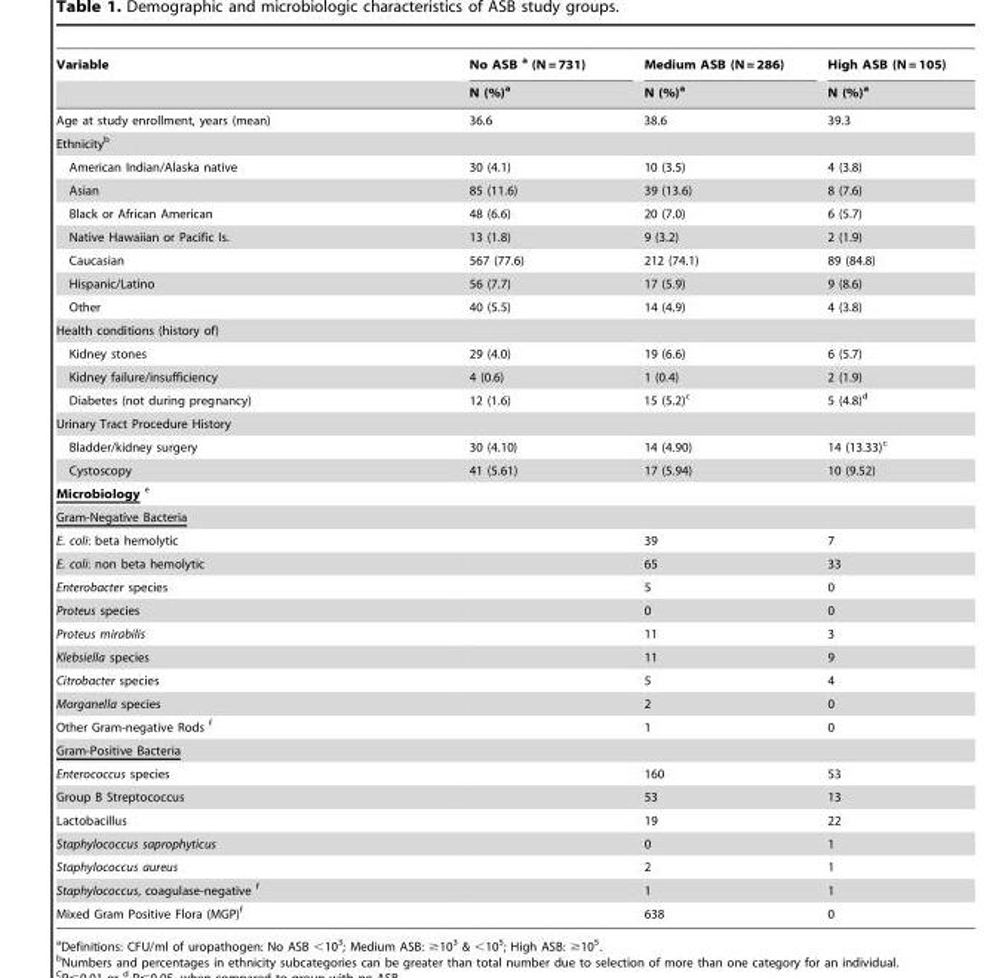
<table><thead><tr><td rowspan="2">Variable</td><td rowspan="2">No ASB a (N = 731) N (%)<sup>a</sup></td><td rowspan="2">Medium ASB (N = 286) N (%)<sup>a</sup></td><td rowspan="2">High ASB (N = 105) N (%)<sup>a</sup></td></tr><tr></tr></thead><tbody><tr><td>Age at study enrollment, years (mean)</td><td>36.6</td><td>38.6</td><td>39.3</td></tr><tr><td colspan="4">Ethnicity<sup>b</sup></td></tr><tr><td>American Indian/Alaska native</td><td>30 (4.1)</td><td>10 (3.5)</td><td>4 (3.8)</td></tr><tr><td>Asian</td><td>85 (11.6)</td><td>39 (13.6)</td><td>8 (7.6)</td></tr><tr><td>Black or African American</td><td>48 (6.6)</td><td>20 (7.0)</td><td>6 (5.7)</td></tr><tr><td>Native Hawaiian or Pacific Is.</td><td>13 (1.8)</td><td>9 (3.2)</td><td>2 (1.9)</td></tr><tr><td>Caucasian</td><td>567 (77.6)</td><td>212 (74.1)</td><td>89 (84.8)</td></tr><tr><td>Hispanic/Latino</td><td>56 (7.7)</td><td>17 (5.9)</td><td>9 (8.6)</td></tr><tr><td>Other</td><td>40 (5.5)</td><td>14 (4.9)</td><td>4 (3.8)</td></tr><tr><td colspan="4">Health conditions (history of)</td></tr><tr><td>Kidney stones</td><td>29 (4.0)</td><td>19 (6.6)</td><td>6 (5.7)</td></tr><tr><td>Kidney failure/insufficiency</td><td>4 (0.6)</td><td>1 (0.4)</td><td>2 (1.9)</td></tr><tr><td>Diabetes (not during pregnancy)</td><td>12 (1.6)</td><td>15 (5.2)<sup>c</sup></td><td>5 (4.8)<sup>d</sup></td></tr><tr><td colspan="4">Urinary Tract Procedure History</td></tr><tr><td>Bladder/kidney surgery</td><td>30 (4.10)</td><td>14 (4.90)</td><td>14 (13.33)<sup>c</sup></td></tr><tr><td>Cystoscopy</td><td>41 (5.61)</td><td>17 (5.94)</td><td>10 (9.52)</td></tr><tr><td colspan="4">Microbiology e</td></tr><tr><td colspan="4">Gram-Negative Bacteria</td></tr><tr><td>E. coli: beta hemolytic</td><td></td><td>39</td><td>7</td></tr><tr><td>E. coli: non beta hemolytic</td><td></td><td>65</td><td>33</td></tr><tr><td>Enterobacter species</td><td></td><td>5</td><td>0</td></tr><tr><td>Proteus species</td><td></td><td>0</td><td>0</td></tr><tr><td>Proteus mirabilis</td><td></td><td>11</td><td>3</td></tr><tr><td>Klebsiella species</td><td></td><td>11</td><td>9</td></tr><tr><td>Citrobacter species</td><td></td><td>5</td><td>4</td></tr><tr><td>Morganella species</td><td></td><td>2</td><td>0</td></tr><tr><td>Other Gram-negative Rods f</td><td></td><td>1</td><td>0</td></tr><tr><td colspan="4">Gram-Positive Bacteria</td></tr><tr><td>Enterococcus species</td><td></td><td>160</td><td>53</td></tr><tr><td>Group B Streptococcus</td><td></td><td>53</td><td>13</td></tr><tr><td>Lactobacillus</td><td></td><td>19</td><td>22</td></tr><tr><td>Staphylococcus saprophyticus</td><td></td><td>0</td><td>1</td></tr><tr><td>Staphylococcus aureus</td><td></td><td>2</td><td>1</td></tr><tr><td>Staphylococcus, coagulase-negative f</td><td></td><td>1</td><td>1</td></tr><tr><td>Mixed Gram Positive Flora (MGP)<sup>f</sup></td><td></td><td>638</td><td>0</td></tr></tbody></table>